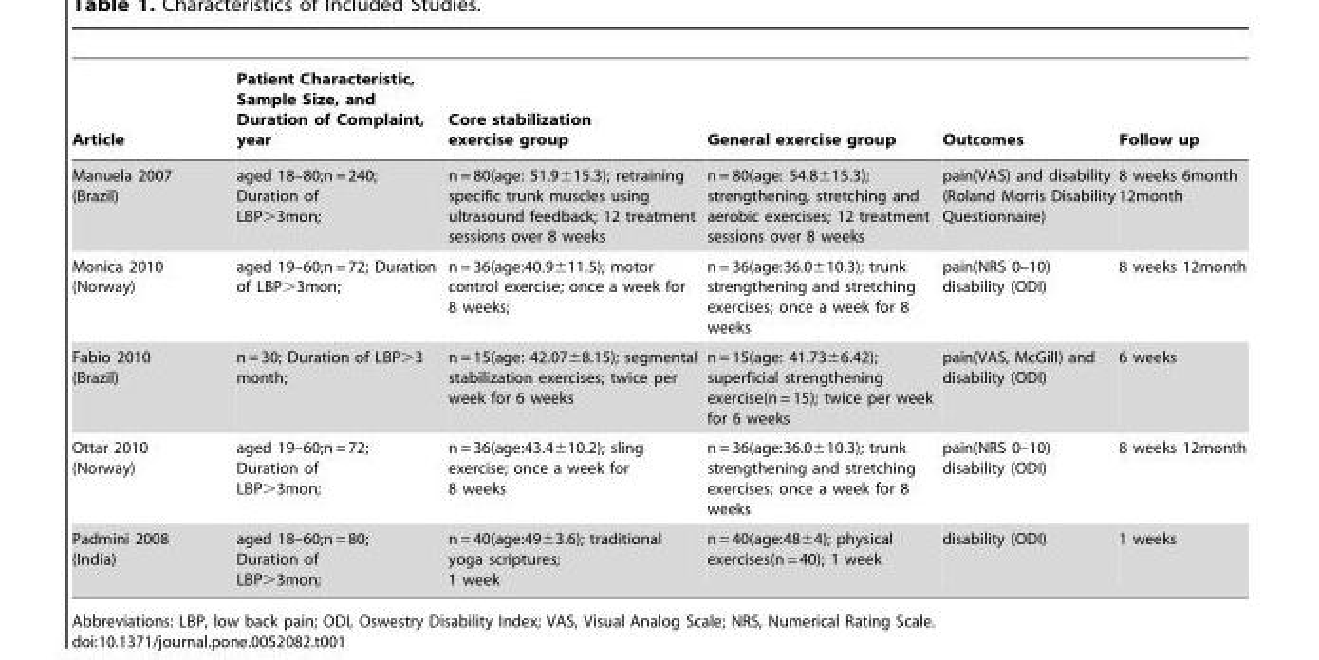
<table><thead><tr><td>Article</td><td>Patient Characteristic, Sample Size, and Duration of Complaint, year</td><td>Core stabilization exercise group</td><td>General exercise group</td><td>Outcomes</td><td>Follow up</td></tr></thead><tbody><tr><td>Manuela 2007 (Brazil)</td><td>aged 18–80;n = 240; Duration of LBP&gt;3mon;</td><td>n = 80(age: 51.9±15.3); retraining specific trunk muscles using ultrasound feedback; 12 treatment sessions over 8 weeks</td><td>n = 80(age: 54.8±15.3); strengthening, stretching and aerobic exercises; 12 treatment sessions over 8 weeks</td><td>pain(VAS) and disability (Roland Morris Disability Questionnaire)</td><td>8 weeks 6month 12month</td></tr><tr><td>Monica 2010 (Norway)</td><td>aged 19–60;n = 72; Duration of LBP&gt;3mon;</td><td>n = 36(age:40.9±11.5); motor control exercise; once a week for 8 weeks;</td><td>n = 36(age:36.0±10.3); trunk strengthening and stretching exercises; once a week for 8 weeks</td><td>pain(NRS 0–10) disability (ODI)</td><td>8 weeks 12month</td></tr><tr><td>Fabio 2010 (Brazil)</td><td>n = 30; Duration of LBP&gt;3 month;</td><td>n = 15(age: 42.07±8.15); segmental stabilization exercises; twice per week for 6 weeks</td><td>n = 15(age: 41.73±6.42); superficial strengthening exercise(n = 15); twice per week for 6 weeks</td><td>pain(VAS, McGill) and disability (ODI)</td><td>6 weeks</td></tr><tr><td>Ottar 2010 (Norway)</td><td>aged 19–60;n = 72; Duration of LBP&gt;3mon;</td><td>n = 36(age:43.4±10.2); sling exercise; once a week for 8 weeks</td><td>n = 36(age:36.0±10.3); trunk strengthening and stretching exercises; once a week for 8 weeks</td><td>pain(NRS 0–10) disability (ODI)</td><td>8 weeks 12month</td></tr><tr><td>Padmini 2008 (India)</td><td>aged 18–60;n = 80; Duration of LBP&gt;3mon;</td><td>n = 40(age:49±3.6); traditional yoga scriptures; 1 week</td><td>n = 40(age:48±4); physical exercises(n = 40); 1 week</td><td>disability (ODI)</td><td>1 weeks</td></tr></tbody></table>